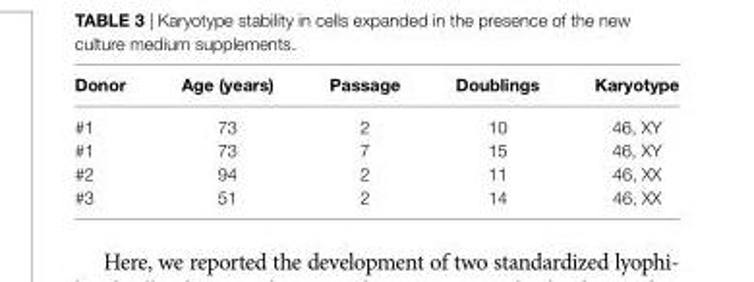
<table><thead><tr><td>Donor</td><td>age (years)</td><td>Passage</td><td>Doublings</td><td>Karyotype</td></tr></thead><tbody><tr><td>#1</td><td>73</td><td>2</td><td>10</td><td>46, XY</td></tr><tr><td>#1</td><td>73</td><td>7</td><td>15</td><td>46, XY</td></tr><tr><td>#2</td><td>94</td><td>2</td><td>11</td><td>46, XX</td></tr><tr><td>#3</td><td>51</td><td>2</td><td>14</td><td>46, XX</td></tr></tbody></table>